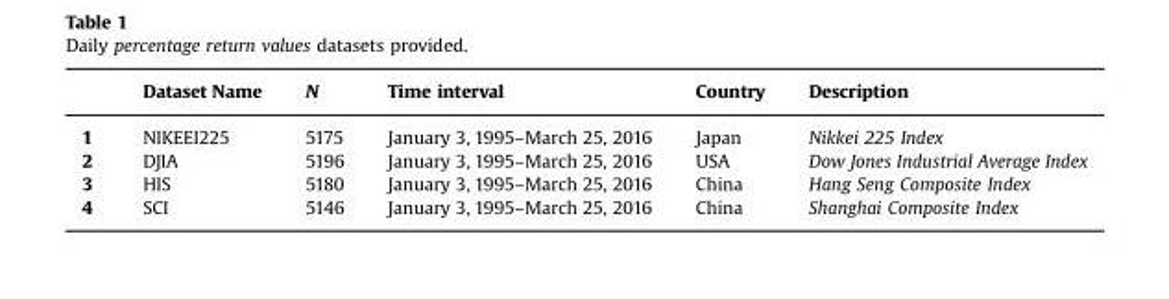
<table><thead><tr><td></td><td>Dataset Name</td><td>N</td><td>Time interval</td><td>Country</td><td>Description</td></tr></thead><tbody><tr><td>1</td><td>NIKEEI225</td><td>5175</td><td>January 3, 1995–March 25, 2016</td><td>Japan</td><td>Nikkei 225 Index</td></tr><tr><td>2</td><td>DJIA</td><td>5196</td><td>January 3, 1995–March 25, 2016</td><td>USA</td><td>Dow Jones Industrial Average Index</td></tr><tr><td>3</td><td>HIS</td><td>5180</td><td>January 3, 1995–March 25, 2016</td><td>China</td><td>Hang Seng Composite Index</td></tr><tr><td>4</td><td>SCI</td><td>5146</td><td>January 3, 1995–March 25, 2016</td><td>China</td><td>Shanghai Composite Index</td></tr></tbody></table>